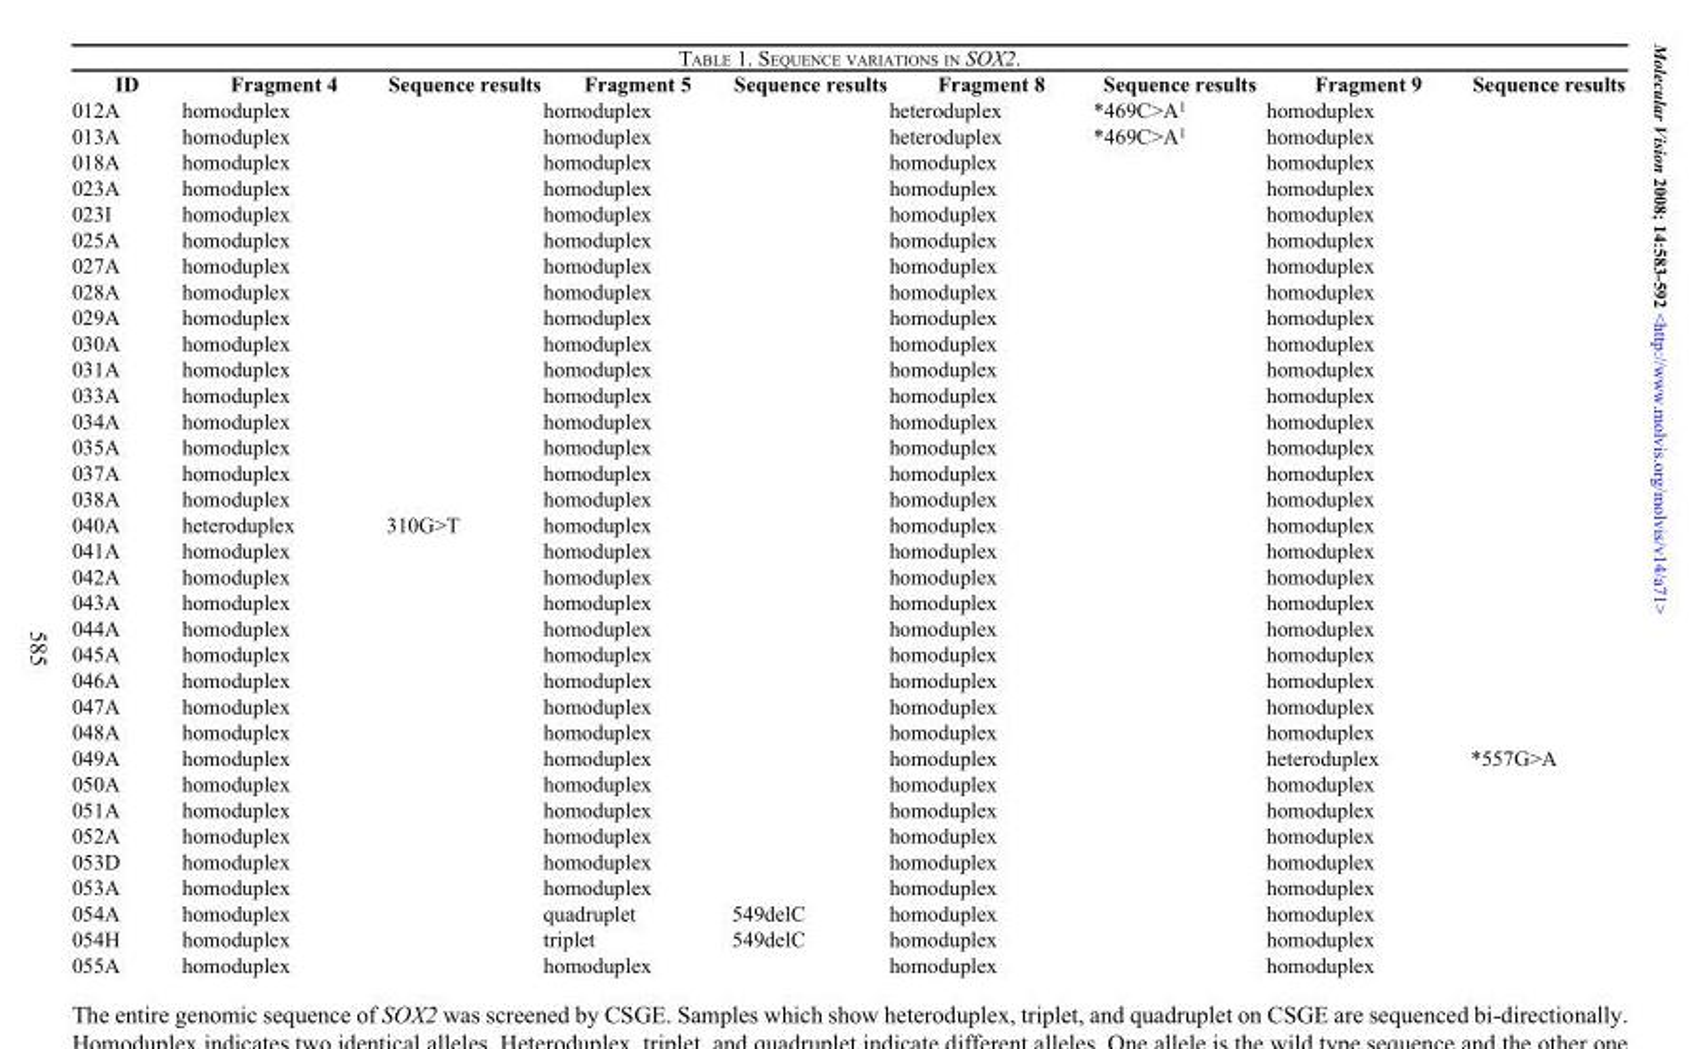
<table><tbody><tr><td>ID</td><td>Fragment 4</td><td>Sequence results</td><td>Fragment 5</td><td>Sequence results</td><td>Fragment 8</td><td>Sequence results</td><td>Fragment 9</td><td>Sequence results</td></tr><tr><td>012A</td><td>homoduplex</td><td></td><td>homoduplex</td><td></td><td>heteroduplex</td><td>*469C&gt;A<sup>1</sup></td><td>homoduplex</td><td></td></tr><tr><td>013A</td><td>homoduplex</td><td></td><td>homoduplex</td><td></td><td>heteroduplex</td><td>*469C&gt;A<sup>1</sup></td><td>homoduplex</td><td></td></tr><tr><td>018A</td><td>homoduplex</td><td></td><td>homoduplex</td><td></td><td>homoduplex</td><td></td><td>homoduplex</td><td></td></tr><tr><td>023A</td><td>homoduplex</td><td></td><td>homoduplex</td><td></td><td>homoduplex</td><td></td><td>homoduplex</td><td></td></tr><tr><td>023I</td><td>homoduplex</td><td></td><td>homoduplex</td><td></td><td>homoduplex</td><td></td><td>homoduplex</td><td></td></tr><tr><td>025A</td><td>homoduplex</td><td></td><td>homoduplex</td><td></td><td>homoduplex</td><td></td><td>homoduplex</td><td></td></tr><tr><td>027A</td><td>homoduplex</td><td></td><td>homoduplex</td><td></td><td>homoduplex</td><td></td><td>homoduplex</td><td></td></tr><tr><td>028A</td><td>homoduplex</td><td></td><td>homoduplex</td><td></td><td>homoduplex</td><td></td><td>homoduplex</td><td></td></tr><tr><td>029A</td><td>homoduplex</td><td></td><td>homoduplex</td><td></td><td>homoduplex</td><td></td><td>homoduplex</td><td></td></tr><tr><td>030A</td><td>homoduplex</td><td></td><td>homoduplex</td><td></td><td>homoduplex</td><td></td><td>homoduplex</td><td></td></tr><tr><td>031A</td><td>homoduplex</td><td></td><td>homoduplex</td><td></td><td>homoduplex</td><td></td><td>homoduplex</td><td></td></tr><tr><td>033A</td><td>homoduplex</td><td></td><td>homoduplex</td><td></td><td>homoduplex</td><td></td><td>homoduplex</td><td></td></tr><tr><td>034A</td><td>homoduplex</td><td></td><td>homoduplex</td><td></td><td>homoduplex</td><td></td><td>homoduplex</td><td></td></tr><tr><td>035A</td><td>homoduplex</td><td></td><td>homoduplex</td><td></td><td>homoduplex</td><td></td><td>homoduplex</td><td></td></tr><tr><td>037A</td><td>homoduplex</td><td></td><td>homoduplex</td><td></td><td>homoduplex</td><td></td><td>homoduplex</td><td></td></tr><tr><td>038A</td><td>homoduplex</td><td></td><td>homoduplex</td><td></td><td>homoduplex</td><td></td><td>homoduplex</td><td></td></tr><tr><td>040A</td><td>heteroduplex</td><td>310G&gt;T</td><td>homoduplex</td><td></td><td>homoduplex</td><td></td><td>homoduplex</td><td></td></tr><tr><td>041A</td><td>homoduplex</td><td></td><td>homoduplex</td><td></td><td>homoduplex</td><td></td><td>homoduplex</td><td></td></tr><tr><td>042A</td><td>homoduplex</td><td></td><td>homoduplex</td><td></td><td>homoduplex</td><td></td><td>homoduplex</td><td></td></tr><tr><td>043A</td><td>homoduplex</td><td></td><td>homoduplex</td><td></td><td>homoduplex</td><td></td><td>homoduplex</td><td></td></tr><tr><td>044A</td><td>homoduplex</td><td></td><td>homoduplex</td><td></td><td>homoduplex</td><td></td><td>homoduplex</td><td></td></tr><tr><td>045A</td><td>homoduplex</td><td></td><td>homoduplex</td><td></td><td>homoduplex</td><td></td><td>homoduplex</td><td></td></tr><tr><td>046A</td><td>homoduplex</td><td></td><td>homoduplex</td><td></td><td>homoduplex</td><td></td><td>homoduplex</td><td></td></tr><tr><td>047A</td><td>homoduplex</td><td></td><td>homoduplex</td><td></td><td>homoduplex</td><td></td><td>homoduplex</td><td></td></tr><tr><td>048A</td><td>homoduplex</td><td></td><td>homoduplex</td><td></td><td>homoduplex</td><td></td><td>homoduplex</td><td></td></tr><tr><td>049A</td><td>homoduplex</td><td></td><td>homoduplex</td><td></td><td>homoduplex</td><td></td><td>heteroduplex</td><td>*557G&gt;A</td></tr><tr><td>050A</td><td>homoduplex</td><td></td><td>homoduplex</td><td></td><td>homoduplex</td><td></td><td>homoduplex</td><td></td></tr><tr><td>051A</td><td>homoduplex</td><td></td><td>homoduplex</td><td></td><td>homoduplex</td><td></td><td>homoduplex</td><td></td></tr><tr><td>052A</td><td>homoduplex</td><td></td><td>homoduplex</td><td></td><td>homoduplex</td><td></td><td>homoduplex</td><td></td></tr><tr><td>053D</td><td>homoduplex</td><td></td><td>homoduplex</td><td></td><td>homoduplex</td><td></td><td>homoduplex</td><td></td></tr><tr><td>053A</td><td>homoduplex</td><td></td><td>homoduplex</td><td></td><td>homoduplex</td><td></td><td>homoduplex</td><td></td></tr><tr><td>054A</td><td>homoduplex</td><td></td><td>quadruplet</td><td>549delC</td><td>homoduplex</td><td></td><td>homoduplex</td><td></td></tr><tr><td>054H</td><td>homoduplex</td><td></td><td>triplet</td><td>549delC</td><td>homoduplex</td><td></td><td>homoduplex</td><td></td></tr><tr><td>055A</td><td>homoduplex</td><td></td><td>homoduplex</td><td></td><td>homoduplex</td><td></td><td>homoduplex</td><td></td></tr></tbody></table>